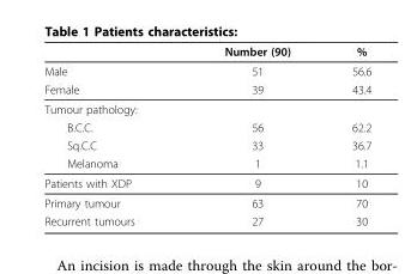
<table><thead><tr><td></td><td>Number (90)</td><td>%</td></tr></thead><tbody><tr><td>Male</td><td>51</td><td>56.6</td></tr><tr><td>Female</td><td>39</td><td>43.4</td></tr><tr><td colspan="3">Tumour pathology:</td></tr><tr><td>B.C.C.</td><td>56</td><td>62.2</td></tr><tr><td>Sq.C.C</td><td>33</td><td>36.7</td></tr><tr><td>Melanoma</td><td>1</td><td>1.1</td></tr><tr><td>Patients with XDP</td><td>9</td><td>10</td></tr><tr><td>Primary tumour</td><td>63</td><td>70</td></tr><tr><td>Recurrent tumours</td><td>27</td><td>30</td></tr></tbody></table>